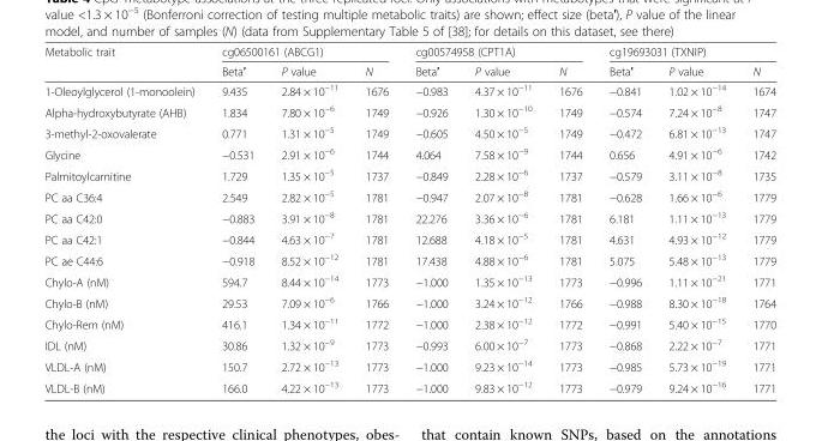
<table><thead><tr><td rowspan="2">Metabolic trait</td><td colspan="3">cg06500161 (ABCG1)</td><td colspan="3">cg00574958 (CPT1A)</td><td colspan="3">cg19693031 (TXNIP)</td></tr><tr><td>Beta′</td><td>P value</td><td>N</td><td>Beta′</td><td>P value</td><td>N</td><td>Beta′</td><td>P value</td><td>N</td></tr></thead><tbody><tr><td>1-Oleoylglycerol (1-monoolein)</td><td>9.435</td><td>2.84 × 10<sup>−11</sup></td><td>1676</td><td>−0.983</td><td>4.37 × 10<sup>−11</sup></td><td>1676</td><td>−0.841</td><td>1.02 × 10<sup>−14</sup></td><td>1674</td></tr><tr><td>Alpha-hydroxybutyrate (AHB)</td><td>1.834</td><td>7.80 × 10<sup>−6</sup></td><td>1749</td><td>−0.926</td><td>1.30 × 10<sup>−10</sup></td><td>1749</td><td>−0.574</td><td>7.24 × 10<sup>−8</sup></td><td>1747</td></tr><tr><td>3-methyl-2-oxovalerate</td><td>0.771</td><td>1.31 × 10<sup>−5</sup></td><td>1749</td><td>−0.605</td><td>4.50 × 10<sup>−5</sup></td><td>1749</td><td>−0.472</td><td>6.81 × 10<sup>−13</sup></td><td>1747</td></tr><tr><td>Glycine</td><td>−0.531</td><td>2.91 × 10<sup>−6</sup></td><td>1744</td><td>4.064</td><td>7.58 × 10<sup>−9</sup></td><td>1744</td><td>0.656</td><td>4.91 × 10<sup>−6</sup></td><td>1742</td></tr><tr><td>Palmitoylcarnitine</td><td>1.729</td><td>1.35 × 10<sup>−5</sup></td><td>1737</td><td>−0.849</td><td>2.28 × 10<sup>−6</sup></td><td>1737</td><td>−0.579</td><td>3.11 × 10<sup>−8</sup></td><td>1735</td></tr><tr><td>PC aa C36:4</td><td>2.549</td><td>2.82 × 10<sup>−5</sup></td><td>1781</td><td>−0.947</td><td>2.07 × 10<sup>−8</sup></td><td>1781</td><td>−0.628</td><td>1.66 × 10<sup>−6</sup></td><td>1779</td></tr><tr><td>PC aa C42:0</td><td>−0.883</td><td>3.91 × 10<sup>−8</sup></td><td>1781</td><td>22.276</td><td>3.36 × 10<sup>−6</sup></td><td>1781</td><td>6.181</td><td>1.11 × 10<sup>−13</sup></td><td>1779</td></tr><tr><td>PC aa C42:1</td><td>−0.844</td><td>4.63 × 10<sup>−7</sup></td><td>1781</td><td>12.688</td><td>4.18 × 10<sup>−5</sup></td><td>1781</td><td>4.631</td><td>4.93 × 10<sup>−12</sup></td><td>1779</td></tr><tr><td>PC ae C44:6</td><td>−0.918</td><td>8.52 × 10<sup>−12</sup></td><td>1781</td><td>17.438</td><td>4.88 × 10<sup>−6</sup></td><td>1781</td><td>5.075</td><td>5.48 × 10<sup>−13</sup></td><td>1779</td></tr><tr><td>Chylo-A (nM)</td><td>594.7</td><td>8.44 × 10<sup>−14</sup></td><td>1773</td><td>−1.000</td><td>1.35 × 10<sup>−13</sup></td><td>1773</td><td>−0.996</td><td>1.11 × 10<sup>−21</sup></td><td>1771</td></tr><tr><td>Chylo-B (nM)</td><td>29.53</td><td>7.09 × 10<sup>−6</sup></td><td>1766</td><td>−1.000</td><td>3.24 × 10<sup>−12</sup></td><td>1766</td><td>−0.988</td><td>8.30 × 10<sup>−18</sup></td><td>1764</td></tr><tr><td>Chylo-Rem (nM)</td><td>416.1</td><td>1.34 × 10<sup>−11</sup></td><td>1772</td><td>−1.000</td><td>2.38 × 10<sup>−12</sup></td><td>1772</td><td>−0.991</td><td>5.40 × 10<sup>−15</sup></td><td>1770</td></tr><tr><td>IDL (nM)</td><td>30.86</td><td>1.32 × 10<sup>−9</sup></td><td>1773</td><td>−0.993</td><td>6.00 × 10<sup>−7</sup></td><td>1773</td><td>−0.868</td><td>2.22 × 10<sup>−7</sup></td><td>1771</td></tr><tr><td>VLDL-A (nM)</td><td>150.7</td><td>2.72 × 10<sup>−13</sup></td><td>1773</td><td>−1.000</td><td>9.23 × 10<sup>−14</sup></td><td>1773</td><td>−0.985</td><td>5.73 × 10<sup>−19</sup></td><td>1771</td></tr><tr><td>VLDL-B (nM)</td><td>166.0</td><td>4.22 × 10<sup>−13</sup></td><td>1773</td><td>−1.000</td><td>9.83 × 10<sup>−12</sup></td><td>1773</td><td>−0.979</td><td>9.24 × 10<sup>−16</sup></td><td>1771</td></tr></tbody></table>